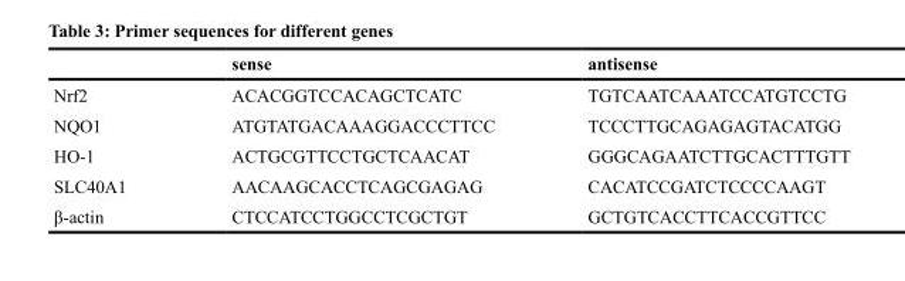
<table><thead><tr><td></td><td>sense</td><td>antisense</td></tr></thead><tbody><tr><td>Nrf2</td><td>ACACGGTCCACAGCTCATC</td><td>TGTCAATCAAATCCATGTCCTG</td></tr><tr><td>NQO1</td><td>ATGTATGACAAAGGACCCTTCC</td><td>TCCCTTGCAGAGAGTACATGG</td></tr><tr><td>HO-1</td><td>ACTGCGTTCCTGCTCAACAT</td><td>GGGCAGAATCTTGCACTTTGTT</td></tr><tr><td>SLC40A1</td><td>AACAAGCACCTCAGCGAGAG</td><td>CACATCCGATCTCCCCAAGT</td></tr><tr><td>β-actin</td><td>CTCCATCCTGGCCTCGCTGT</td><td>GCTGTCACCTTCACCGTTCC</td></tr></tbody></table>